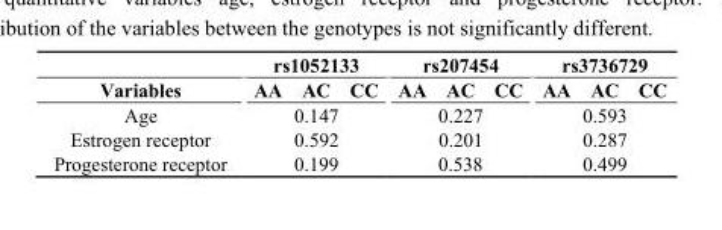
<table><thead><tr><td rowspan="2">Variables</td><td colspan="3">rs1052133</td><td colspan="3">rs207454</td><td colspan="3">rs3736729</td></tr><tr><td>AA</td><td>AC</td><td>CC</td><td>AA</td><td>AC</td><td>CC</td><td>AA</td><td>AC</td><td>CC</td></tr></thead><tbody><tr><td>Age</td><td colspan="3">0.147</td><td colspan="3">0.227</td><td colspan="3">0.593</td></tr><tr><td>Estrogen receptor</td><td colspan="3">0.592</td><td colspan="3">0.201</td><td colspan="3">0.287</td></tr><tr><td>Progesterone receptor</td><td colspan="3">0.199</td><td colspan="3">0.538</td><td colspan="3">0.499</td></tr></tbody></table>